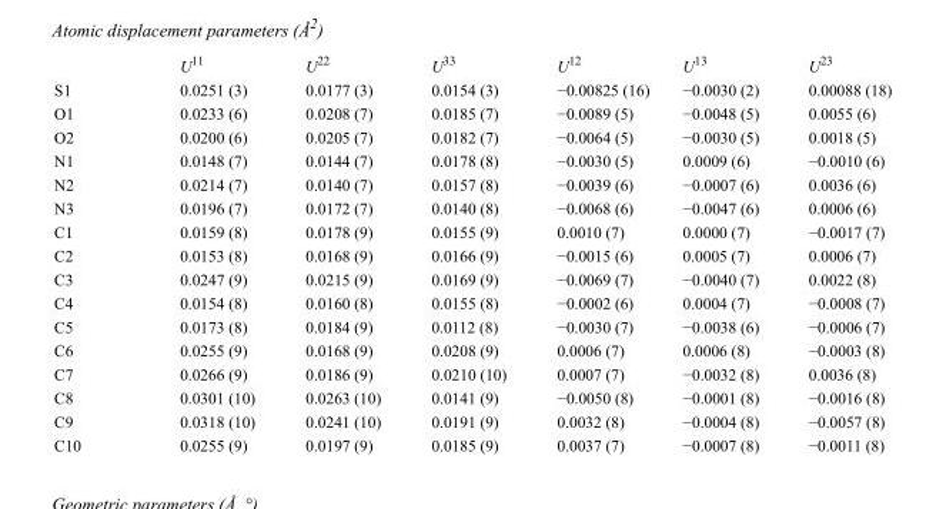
<table><thead><tr><td></td><td>U<sup>11</sup></td><td>U<sup>22</sup></td><td>U<sup>33</sup></td><td>U<sup>12</sup></td><td>U<sup>13</sup></td><td>U<sup>23</sup></td></tr></thead><tbody><tr><td>S1</td><td>0.0251 (3)</td><td>0.0177 (3)</td><td>0.0154 (3)</td><td>−0.00825 (16)</td><td>−0.0030 (2)</td><td>0.00088 (18)</td></tr><tr><td>O1</td><td>0.0233 (6)</td><td>0.0208 (7)</td><td>0.0185 (7)</td><td>−0.0089 (5)</td><td>−0.0048 (5)</td><td>0.0055 (6)</td></tr><tr><td>O2</td><td>0.0200 (6)</td><td>0.0205 (7)</td><td>0.0182 (7)</td><td>−0.0064 (5)</td><td>−0.0030 (5)</td><td>0.0018 (5)</td></tr><tr><td>N1</td><td>0.0148 (7)</td><td>0.0144 (7)</td><td>0.0178 (8)</td><td>−0.0030 (5)</td><td>0.0009 (6)</td><td>−0.0010 (6)</td></tr><tr><td>N2</td><td>0.0214 (7)</td><td>0.0140 (7)</td><td>0.0157 (8)</td><td>−0.0039 (6)</td><td>−0.0007 (6)</td><td>0.0036 (6)</td></tr><tr><td>N3</td><td>0.0196 (7)</td><td>0.0172 (7)</td><td>0.0140 (8)</td><td>−0.0068 (6)</td><td>−0.0047 (6)</td><td>0.0006 (6)</td></tr><tr><td>C1</td><td>0.0159 (8)</td><td>0.0178 (9)</td><td>0.0155 (9)</td><td>0.0010 (7)</td><td>0.0000 (7)</td><td>−0.0017 (7)</td></tr><tr><td>C2</td><td>0.0153 (8)</td><td>0.0168 (9)</td><td>0.0166 (9)</td><td>−0.0015 (6)</td><td>0.0005 (7)</td><td>0.0006 (7)</td></tr><tr><td>C3</td><td>0.0247 (9)</td><td>0.0215 (9)</td><td>0.0169 (9)</td><td>−0.0069 (7)</td><td>−0.0040 (7)</td><td>0.0022 (8)</td></tr><tr><td>C4</td><td>0.0154 (8)</td><td>0.0160 (8)</td><td>0.0155 (8)</td><td>−0.0002 (6)</td><td>0.0004 (7)</td><td>−0.0008 (7)</td></tr><tr><td>C5</td><td>0.0173 (8)</td><td>0.0184 (9)</td><td>0.0112 (8)</td><td>−0.0030 (7)</td><td>−0.0038 (6)</td><td>−0.0006 (7)</td></tr><tr><td>C6</td><td>0.0255 (9)</td><td>0.0168 (9)</td><td>0.0208 (9)</td><td>0.0006 (7)</td><td>0.0006 (8)</td><td>−0.0003 (8)</td></tr><tr><td>C7</td><td>0.0266 (9)</td><td>0.0186 (9)</td><td>0.0210 (10)</td><td>0.0007 (7)</td><td>−0.0032 (8)</td><td>0.0036 (8)</td></tr><tr><td>C8</td><td>0.0301 (10)</td><td>0.0263 (10)</td><td>0.0141 (9)</td><td>−0.0050 (8)</td><td>−0.0001 (8)</td><td>−0.0016 (8)</td></tr><tr><td>C9</td><td>0.0318 (10)</td><td>0.0241 (10)</td><td>0.0191 (9)</td><td>0.0032 (8)</td><td>−0.0004 (8)</td><td>−0.0057 (8)</td></tr><tr><td>C10</td><td>0.0255 (9)</td><td>0.0197 (9)</td><td>0.0185 (9)</td><td>0.0037 (7)</td><td>−0.0007 (8)</td><td>−0.0011 (8)</td></tr></tbody></table>